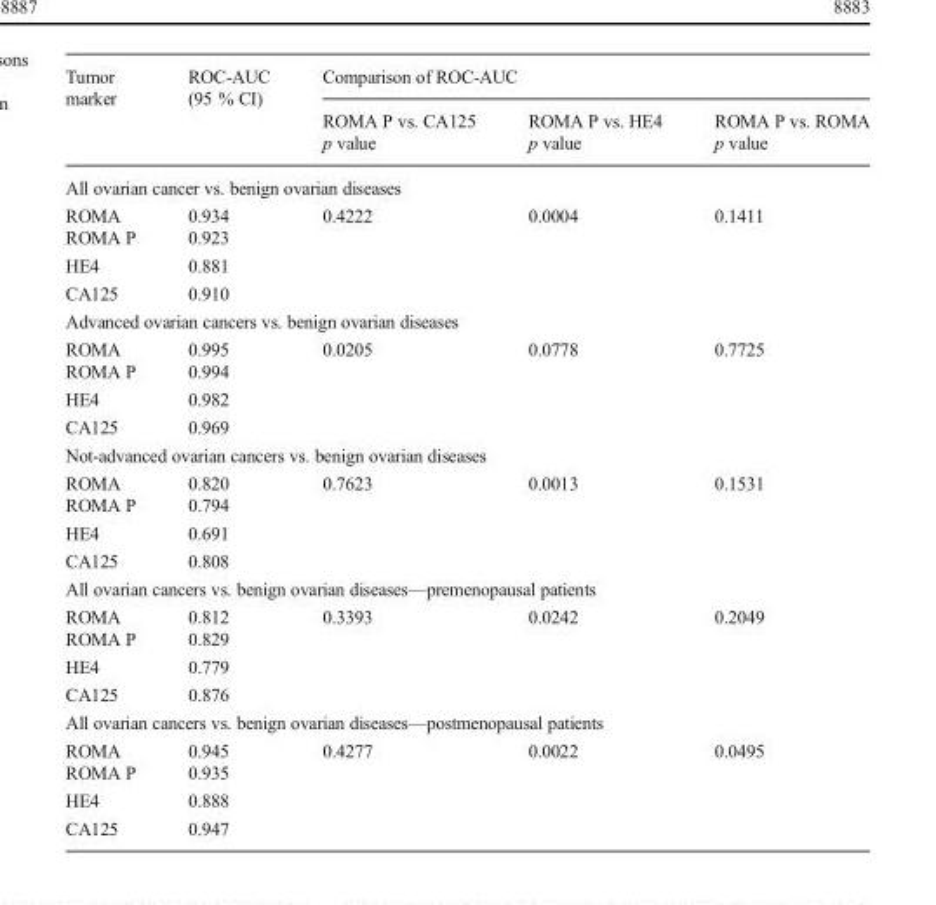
<table><thead><tr><td rowspan="2">Tumor marker</td><td rowspan="2">ROC-AUC (95 % CI)</td><td colspan="3">Comparison of ROC-AUC</td></tr><tr><td>ROMA P vs. CA125 p value</td><td>ROMA P vs. HE4 p value</td><td>ROMA P vs. ROMA p value</td></tr></thead><tbody><tr><td colspan="5">All ovarian cancer vs. benign ovarian diseases</td></tr><tr><td>ROMA</td><td>0.934</td><td rowspan="4">0.4222</td><td rowspan="4">0.0004</td><td rowspan="4">0.1411</td></tr><tr><td>ROMA P</td><td>0.923</td></tr><tr><td>HE4</td><td>0.881</td></tr><tr><td>CA125</td><td>0.910</td></tr><tr><td colspan="5">Advanced ovarian cancers vs. benign ovarian diseases</td></tr><tr><td>ROMA</td><td>0.995</td><td rowspan="4">0.0205</td><td rowspan="4">0.0778</td><td rowspan="4">0.7725</td></tr><tr><td>ROMA P</td><td>0.994</td></tr><tr><td>HE4</td><td>0.982</td></tr><tr><td>CA125</td><td>0.969</td></tr><tr><td colspan="5">Not-advanced ovarian cancers vs. benign ovarian diseases</td></tr><tr><td>ROMA</td><td>0.820</td><td rowspan="4">0.7623</td><td rowspan="4">0.0013</td><td rowspan="4">0.1531</td></tr><tr><td>ROMA P</td><td>0.794</td></tr><tr><td>HE4</td><td>0.691</td></tr><tr><td>CA125</td><td>0.808</td></tr><tr><td colspan="5">All ovarian cancers vs. benign ovarian diseases—premenopausal patients</td></tr><tr><td>ROMA</td><td>0.812</td><td rowspan="4">0.3393</td><td rowspan="4">0.0242</td><td rowspan="4">0.2049</td></tr><tr><td>ROMA P</td><td>0.829</td></tr><tr><td>HE4</td><td>0.779</td></tr><tr><td>CA125</td><td>0.876</td></tr><tr><td colspan="5">All ovarian cancers vs. benign ovarian diseases—postmenopausal patients</td></tr><tr><td>ROMA</td><td>0.945</td><td rowspan="4">0.4277</td><td rowspan="4">0.0022</td><td rowspan="4">0.0495</td></tr><tr><td>ROMA P</td><td>0.935</td></tr><tr><td>HE4</td><td>0.888</td></tr><tr><td>CA125</td><td>0.947</td></tr></tbody></table>